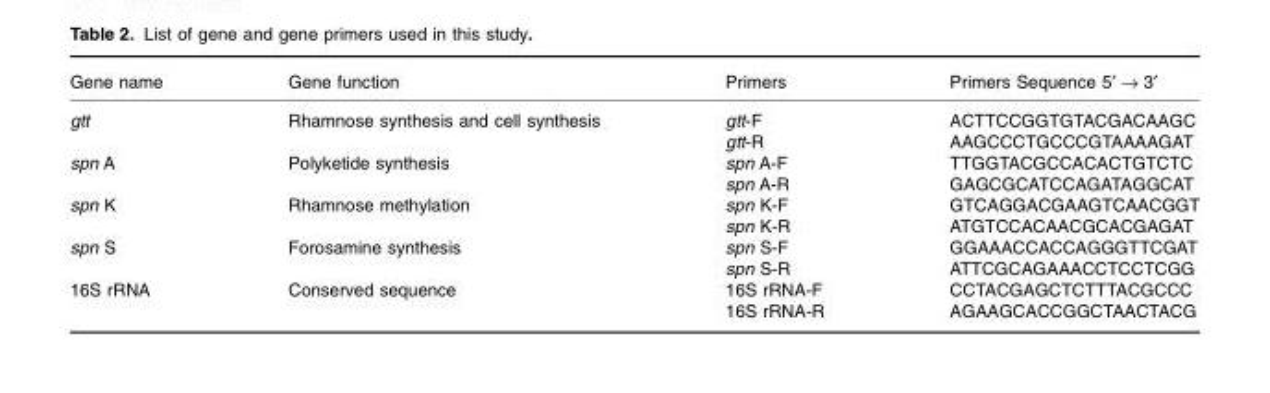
<table><thead><tr><td>Gene name</td><td>Gene function</td><td>Primers</td><td>Primers Sequence 5′ → 3′</td></tr></thead><tbody><tr><td rowspan="2">gtt</td><td rowspan="2">Rhamnose synthesis and cell synthesis</td><td>gtt-F</td><td>ACTTCCGGTGTACGACAAGC</td></tr><tr><td>gtt-R</td><td>AAGCCCTGCCCGTAAAAGAT</td></tr><tr><td rowspan="2">spn A</td><td rowspan="2">Polyketide synthesis</td><td>spn A-F</td><td>TTGGTACGCCACACTGTCTC</td></tr><tr><td>spn A-R</td><td>GAGCGCATCCAGATAGGCAT</td></tr><tr><td rowspan="2">spn K</td><td rowspan="2">Rhamnose methylation</td><td>spn K-F</td><td>GTCAGGACGAAGTCAACGGT</td></tr><tr><td>spn K-R</td><td>ATGTCCACAACGCACGAGAT</td></tr><tr><td rowspan="2">spn S</td><td rowspan="2">Forosamine synthesis</td><td>spn S-F</td><td>GGAAACCACCAGGGTTCGAT</td></tr><tr><td>spn S-R</td><td>ATTCGCAGAAACCTCCTCGG</td></tr><tr><td rowspan="2">16S rRNA</td><td rowspan="2">Conserved sequence</td><td>16S rRNA-F</td><td>CCTACGAGCTCTTTACGCCC</td></tr><tr><td>16S rRNA-R</td><td>AGAAGCACCGGCTAACTACG</td></tr></tbody></table>